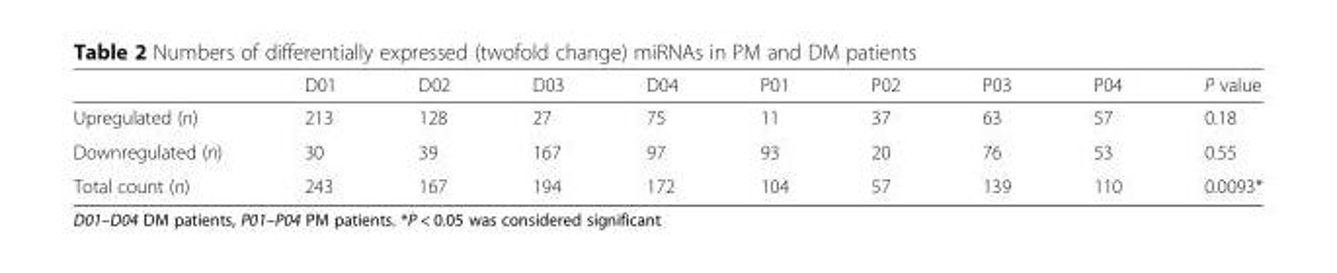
<table><thead><tr><td></td><td>D01</td><td>D02</td><td>D03</td><td>D04</td><td>P01</td><td>P02</td><td>P03</td><td>P04</td><td>P value</td></tr></thead><tbody><tr><td>Upregulated (n)</td><td>213</td><td>128</td><td>27</td><td>75</td><td>11</td><td>37</td><td>63</td><td>57</td><td>0.18</td></tr><tr><td>Downregulated (n)</td><td>30</td><td>39</td><td>167</td><td>97</td><td>93</td><td>20</td><td>76</td><td>53</td><td>0.55</td></tr><tr><td>Total count (n)</td><td>243</td><td>167</td><td>194</td><td>172</td><td>104</td><td>57</td><td>139</td><td>110</td><td>0.0093*</td></tr></tbody></table>